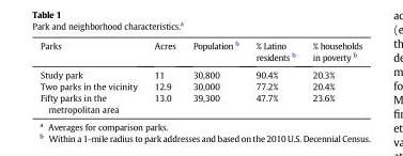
<table><thead><tr><td>Parks</td><td>Acres</td><td>Population b</td><td>% Latino residents b</td><td>% households in poverty b</td></tr></thead><tbody><tr><td>Study park</td><td>11</td><td>30,800</td><td>90.4%</td><td>20.3%</td></tr><tr><td>Two parks in the vicinity</td><td>12.9</td><td>30,000</td><td>77.2%</td><td>20.4%</td></tr><tr><td>Fifty parks in the metropolitan area</td><td>13.0</td><td>39,300</td><td>47.7%</td><td>23.6%</td></tr></tbody></table>